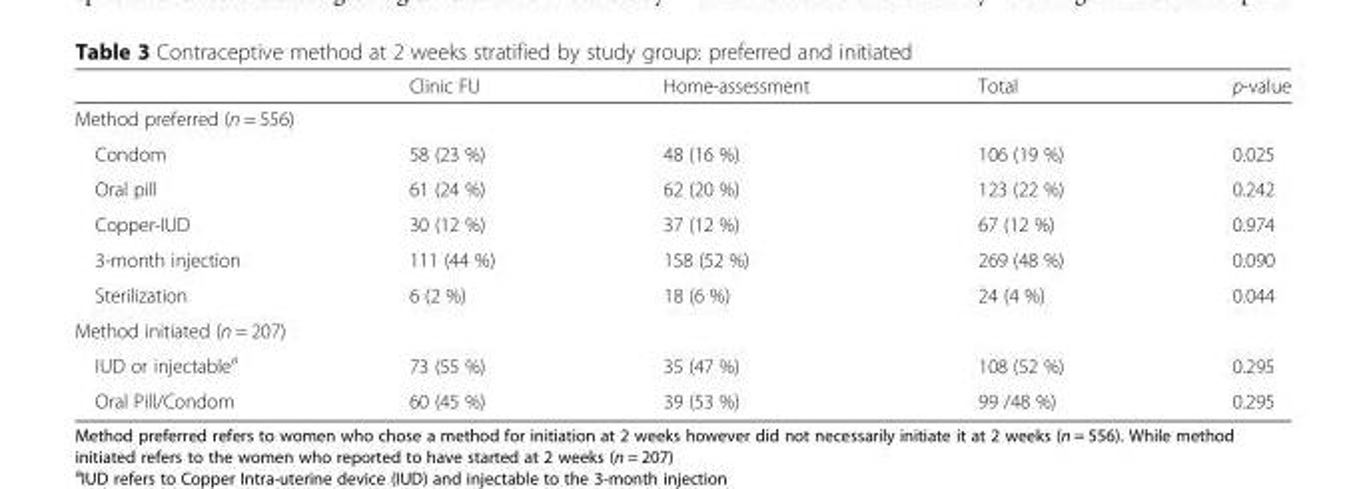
<table><thead><tr><td></td><td>Clinic FU</td><td>Home-assessment</td><td>Total</td><td>p-value</td></tr></thead><tbody><tr><td colspan="5">Method preferred (n = 556)</td></tr><tr><td>Condom</td><td>58 (23 %)</td><td>48 (16 %)</td><td>106 (19 %)</td><td>0.025</td></tr><tr><td>Oral pill</td><td>61 (24 %)</td><td>62 (20 %)</td><td>123 (22 %)</td><td>0.242</td></tr><tr><td>Copper-IUD</td><td>30 (12 %)</td><td>37 (12 %)</td><td>67 (12 %)</td><td>0.974</td></tr><tr><td>3-month injection</td><td>111 (44 %)</td><td>158 (52 %)</td><td>269 (48 %)</td><td>0.090</td></tr><tr><td>Sterilization</td><td>6 (2 %)</td><td>18 (6 %)</td><td>24 (4 %)</td><td>0.044</td></tr><tr><td colspan="5">Method initiated (n = 207)</td></tr><tr><td>IUD or injectable<sup>a</sup></td><td>73 (55 %)</td><td>35 (47 %)</td><td>108 (52 %)</td><td>0.295</td></tr><tr><td>Oral Pill/Condom</td><td>60 (45 %)</td><td>39 (53 %)</td><td>99 /48 %)</td><td>0.295</td></tr></tbody></table>